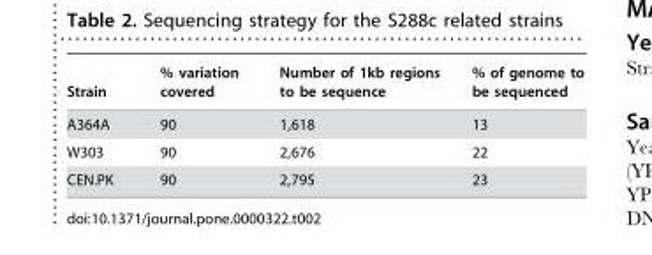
<table><thead><tr><td>Strain</td><td>% variation covered</td><td>Number of 1kb regions to be sequence</td><td>% of genome to be sequenced</td></tr></thead><tbody><tr><td>A364A</td><td>90</td><td>1,618</td><td>13</td></tr><tr><td>W303</td><td>90</td><td>2,676</td><td>22</td></tr><tr><td>CEN.PK</td><td>90</td><td>2,795</td><td>23</td></tr></tbody></table>